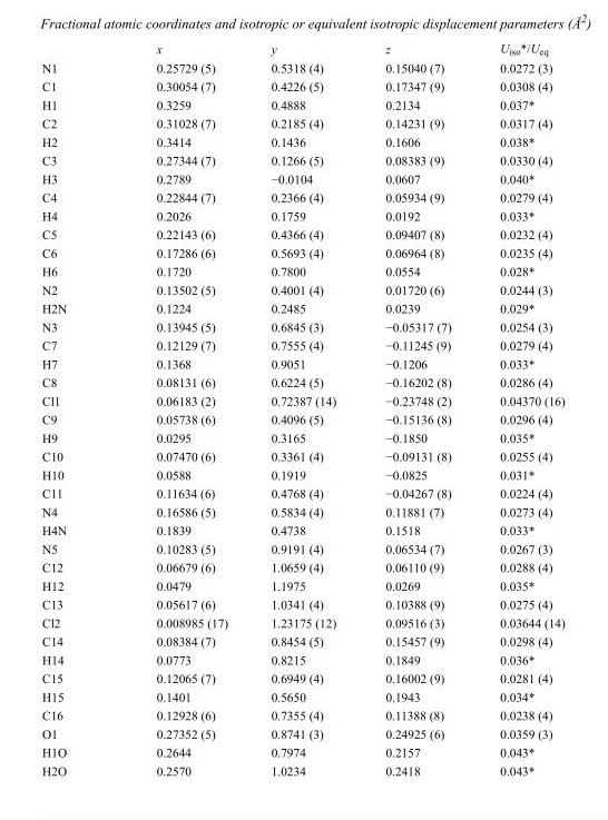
<table><thead><tr><td></td><td>x</td><td>y</td><td>z</td><td>U<sub>iso</sub>*/U<sub>eq</sub></td></tr></thead><tbody><tr><td>N1</td><td>0.25729 (5)</td><td>0.5318 (4)</td><td>0.15040 (7)</td><td>0.0272 (3)</td></tr><tr><td>C1</td><td>0.30054 (7)</td><td>0.4226 (5)</td><td>0.17347 (9)</td><td>0.0308 (4)</td></tr><tr><td>H1</td><td>0.3259</td><td>0.4888</td><td>0.2134</td><td>0.037*</td></tr><tr><td>C2</td><td>0.31028 (7)</td><td>0.2185 (4)</td><td>0.14231 (9)</td><td>0.0317 (4)</td></tr><tr><td>H2</td><td>0.3414</td><td>0.1436</td><td>0.1606</td><td>0.038*</td></tr><tr><td>C3</td><td>0.27344 (7)</td><td>0.1266 (5)</td><td>0.08383 (9)</td><td>0.0330 (4)</td></tr><tr><td>H3</td><td>0.2789</td><td>−0.0104</td><td>0.0607</td><td>0.040*</td></tr><tr><td>C4</td><td>0.22844 (7)</td><td>0.2366 (4)</td><td>0.05934 (9)</td><td>0.0279 (4)</td></tr><tr><td>H4</td><td>0.2026</td><td>0.1759</td><td>0.0192</td><td>0.033*</td></tr><tr><td>C5</td><td>0.22143 (6)</td><td>0.4366 (4)</td><td>0.09407 (8)</td><td>0.0232 (4)</td></tr><tr><td>C6</td><td>0.17286 (6)</td><td>0.5693 (4)</td><td>0.06964 (8)</td><td>0.0235 (4)</td></tr><tr><td>H6</td><td>0.1720</td><td>0.7800</td><td>0.0554</td><td>0.028*</td></tr><tr><td>N2</td><td>0.13502 (5)</td><td>0.4001 (4)</td><td>0.01720 (6)</td><td>0.0244 (3)</td></tr><tr><td>H2N</td><td>0.1224</td><td>0.2485</td><td>0.0239</td><td>0.029*</td></tr><tr><td>N3</td><td>0.13945 (5)</td><td>0.6845 (3)</td><td>−0.05317 (7)</td><td>0.0254 (3)</td></tr><tr><td>C7</td><td>0.12129 (7)</td><td>0.7555 (4)</td><td>−0.11245 (9)</td><td>0.0279 (4)</td></tr><tr><td>H7</td><td>0.1368</td><td>0.9051</td><td>−0.1206</td><td>0.033*</td></tr><tr><td>C8</td><td>0.08131 (6)</td><td>0.6224 (5)</td><td>−0.16202 (8)</td><td>0.0286 (4)</td></tr><tr><td>Cl1</td><td>0.06183 (2)</td><td>0.72387 (14)</td><td>−0.23748 (2)</td><td>0.04370 (16)</td></tr><tr><td>C9</td><td>0.05738 (6)</td><td>0.4096 (5)</td><td>−0.15136 (8)</td><td>0.0296 (4)</td></tr><tr><td>H9</td><td>0.0295</td><td>0.3165</td><td>−0.1850</td><td>0.035*</td></tr><tr><td>C10</td><td>0.07470 (6)</td><td>0.3361 (4)</td><td>−0.09131 (8)</td><td>0.0255 (4)</td></tr><tr><td>H10</td><td>0.0588</td><td>0.1919</td><td>−0.0825</td><td>0.031*</td></tr><tr><td>C11</td><td>0.11634 (6)</td><td>0.4768 (4)</td><td>−0.04267 (8)</td><td>0.0224 (4)</td></tr><tr><td>N4</td><td>0.16586 (5)</td><td>0.5834 (4)</td><td>0.11881 (7)</td><td>0.0273 (4)</td></tr><tr><td>H4N</td><td>0.1839</td><td>0.4738</td><td>0.1518</td><td>0.033*</td></tr><tr><td>N5</td><td>0.10283 (5)</td><td>0.9191 (4)</td><td>0.06534 (7)</td><td>0.0267 (3)</td></tr><tr><td>C12</td><td>0.06679 (6)</td><td>1.0659 (4)</td><td>0.06110 (9)</td><td>0.0288 (4)</td></tr><tr><td>H12</td><td>0.0479</td><td>1.1975</td><td>0.0269</td><td>0.035*</td></tr><tr><td>C13</td><td>0.05617 (6)</td><td>1.0341 (4)</td><td>0.10388 (9)</td><td>0.0275 (4)</td></tr><tr><td>Cl2</td><td>0.008985 (17)</td><td>1.23175 (12)</td><td>0.09516 (3)</td><td>0.03644 (14)</td></tr><tr><td>C14</td><td>0.08384 (7)</td><td>0.8454 (5)</td><td>0.15457 (9)</td><td>0.0298 (4)</td></tr><tr><td>H14</td><td>0.0773</td><td>0.8215</td><td>0.1849</td><td>0.036*</td></tr><tr><td>C15</td><td>0.12065 (7)</td><td>0.6949 (4)</td><td>0.16002 (9)</td><td>0.0281 (4)</td></tr><tr><td>H15</td><td>0.1401</td><td>0.5650</td><td>0.1943</td><td>0.034*</td></tr><tr><td>C16</td><td>0.12928 (6)</td><td>0.7355 (4)</td><td>0.11388 (8)</td><td>0.0238 (4)</td></tr><tr><td>O1</td><td>0.27352 (5)</td><td>0.8741 (3)</td><td>0.24925 (6)</td><td>0.0359 (3)</td></tr><tr><td>H1O</td><td>0.2644</td><td>0.7974</td><td>0.2157</td><td>0.043*</td></tr><tr><td>H2O</td><td>0.2570</td><td>1.0234</td><td>0.2418</td><td>0.043*</td></tr></tbody></table>